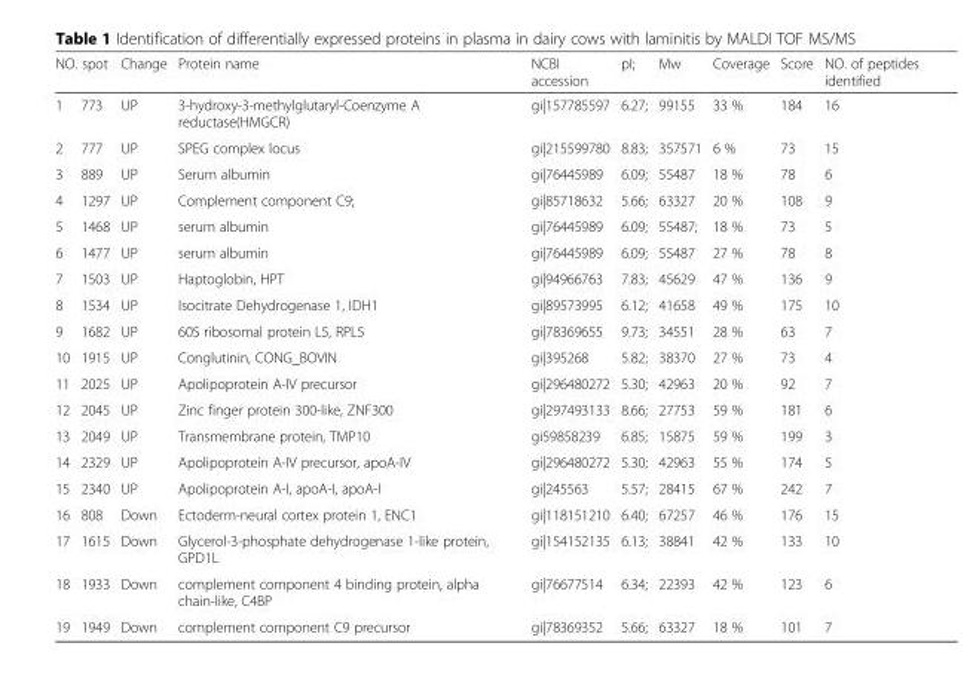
<table><thead><tr><td colspan="2">NO. spot</td><td rowspan="2">Change UP</td><td rowspan="2">Protein name 3-hydroxy-3-methylglutaryl-Coenzyme A reductase(HMGCR)</td><td rowspan="2">NCBI accession gi|157785597</td><td rowspan="2">pI; 6.27;</td><td rowspan="2">Mw 99155</td><td rowspan="2">Coverage 33 %</td><td rowspan="2">Score 184</td><td rowspan="2">NO. of peptides identified 16</td></tr><tr><td>1</td><td>773</td></tr></thead><tbody><tr><td>2</td><td>777</td><td>UP</td><td>SPEG complex locus</td><td>gi|215599780</td><td>8.83;</td><td>357571</td><td>6 %</td><td>73</td><td>15</td></tr><tr><td>3</td><td>889</td><td>UP</td><td>Serum albumin</td><td>gi|76445989</td><td>6.09;</td><td>55487</td><td>18 %</td><td>78</td><td>6</td></tr><tr><td>4</td><td>1297</td><td>UP</td><td>Complement component C9;</td><td>gi|85718632</td><td>5.66;</td><td>63327</td><td>20 %</td><td>108</td><td>9</td></tr><tr><td>5</td><td>1468</td><td>UP</td><td>serum albumin</td><td>gi|76445989</td><td>6.09;</td><td>55487;</td><td>18 %</td><td>73</td><td>5</td></tr><tr><td>6</td><td>1477</td><td>UP</td><td>serum albumin</td><td>gi|76445989</td><td>6.09;</td><td>55487</td><td>27 %</td><td>78</td><td>8</td></tr><tr><td>7</td><td>1503</td><td>UP</td><td>Haptoglobin, HPT</td><td>gi|94966763</td><td>7.83;</td><td>45629</td><td>47 %</td><td>136</td><td>9</td></tr><tr><td>8</td><td>1534</td><td>UP</td><td>Isocitrate Dehydrogenase 1, IDH1</td><td>gi|89573995</td><td>6.12;</td><td>41658</td><td>49 %</td><td>175</td><td>10</td></tr><tr><td>9</td><td>1682</td><td>UP</td><td>60S ribosomal protein L5, RPL5</td><td>gi|78369655</td><td>9.73;</td><td>34551</td><td>28 %</td><td>63</td><td>7</td></tr><tr><td>10</td><td>1915</td><td>UP</td><td>Conglutinin, CONG_BOVIN</td><td>gi|395268</td><td>5.82;</td><td>38370</td><td>27 %</td><td>73</td><td>4</td></tr><tr><td>11</td><td>2025</td><td>UP</td><td>Apolipoprotein A-IV precursor</td><td>gi|296480272</td><td>5.30;</td><td>42963</td><td>20 %</td><td>92</td><td>7</td></tr><tr><td>12</td><td>2045</td><td>UP</td><td>Zinc finger protein 300-like, ZNF300</td><td>gi|297493133</td><td>8.66;</td><td>27753</td><td>59 %</td><td>181</td><td>6</td></tr><tr><td>13</td><td>2049</td><td>UP</td><td>Transmembrane protein, TMP10</td><td>gi59858239</td><td>6.85;</td><td>15875</td><td>59 %</td><td>199</td><td>3</td></tr><tr><td>14</td><td>2329</td><td>UP</td><td>Apolipoprotein A-IV precursor, apoA-IV</td><td>gi|296480272</td><td>5.30;</td><td>42963</td><td>55 %</td><td>174</td><td>5</td></tr><tr><td>15</td><td>2340</td><td>UP</td><td>Apolipoprotein A-I, apoA-I, apoA-I</td><td>gi|245563</td><td>5.57;</td><td>28415</td><td>67 %</td><td>242</td><td>7</td></tr><tr><td>16</td><td>808</td><td>Down</td><td>Ectoderm-neural cortex protein 1, ENC1</td><td>gi|118151210</td><td>6.40;</td><td>67257</td><td>46 %</td><td>176</td><td>15</td></tr><tr><td>17</td><td>1615</td><td>Down</td><td>Glycerol-3-phosphate dehydrogenase 1-like protein, GPD1L</td><td>gi|154152135</td><td>6.13;</td><td>38841</td><td>42 %</td><td>133</td><td>10</td></tr><tr><td>18</td><td>1933</td><td>Down</td><td>complement component 4 binding protein, alpha chain-like, C4BP</td><td>gi|76677514</td><td>6.34;</td><td>22393</td><td>42 %</td><td>123</td><td>6</td></tr><tr><td>19</td><td>1949</td><td>Down</td><td>complement component C9 precursor</td><td>gi|78369352</td><td>5.66;</td><td>63327</td><td>18 %</td><td>101</td><td>7</td></tr></tbody></table>